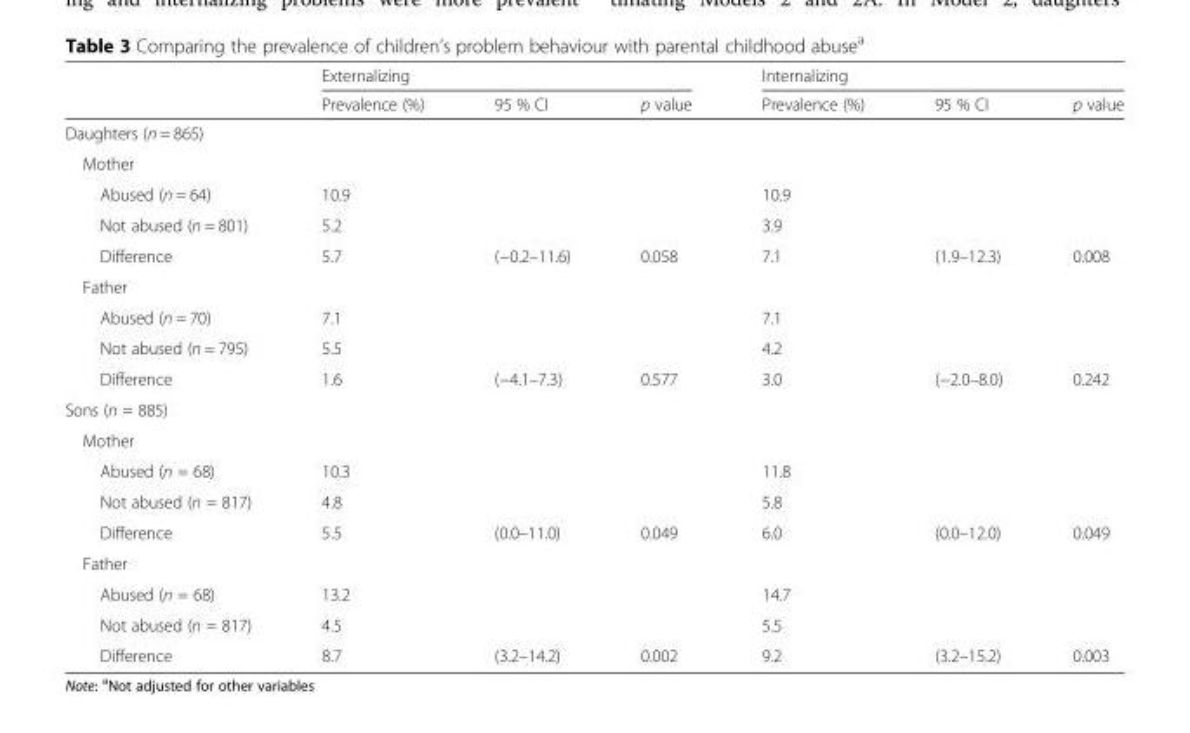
<table><thead><tr><td rowspan="2"></td><td colspan="3">Externalizing</td><td colspan="3">Internalizing</td></tr><tr><td>Prevalence (%)</td><td>95 % CI</td><td>p value</td><td>Prevalence (%)</td><td>95 % CI</td><td>p value</td></tr></thead><tbody><tr><td colspan="7">Daughters (n = 865)</td></tr><tr><td colspan="7">Mother</td></tr><tr><td>Abused (n = 64)</td><td>10.9</td><td></td><td></td><td>10.9</td><td></td><td></td></tr><tr><td>Not abused (n = 801)</td><td>5.2</td><td></td><td></td><td>3.9</td><td></td><td></td></tr><tr><td>Difference</td><td>5.7</td><td>(−0.2–11.6)</td><td>0.058</td><td>7.1</td><td>(1.9–12.3)</td><td>0.008</td></tr><tr><td colspan="7">Father</td></tr><tr><td>Abused (n = 70)</td><td>7.1</td><td></td><td></td><td>7.1</td><td></td><td></td></tr><tr><td>Not abused (n = 795)</td><td>5.5</td><td></td><td></td><td>4.2</td><td></td><td></td></tr><tr><td>Difference</td><td>1.6</td><td>(−4.1–7.3)</td><td>0.577</td><td>3.0</td><td>(−2.0–8.0)</td><td>0.242</td></tr><tr><td colspan="7">Sons (n = 885)</td></tr><tr><td colspan="7">Mother</td></tr><tr><td>Abused (n = 68)</td><td>10.3</td><td></td><td></td><td>11.8</td><td></td><td></td></tr><tr><td>Not abused (n = 817)</td><td>4.8</td><td></td><td></td><td>5.8</td><td></td><td></td></tr><tr><td>Difference</td><td>5.5</td><td>(0.0–11.0)</td><td>0.049</td><td>6.0</td><td>(0.0–12.0)</td><td>0.049</td></tr><tr><td colspan="7">Father</td></tr><tr><td>Abused (n = 68)</td><td>13.2</td><td></td><td></td><td>14.7</td><td></td><td></td></tr><tr><td>Not abused (n = 817)</td><td>4.5</td><td></td><td></td><td>5.5</td><td></td><td></td></tr><tr><td>Difference</td><td>8.7</td><td>(3.2–14.2)</td><td>0.002</td><td>9.2</td><td>(3.2–15.2)</td><td>0.003</td></tr></tbody></table>